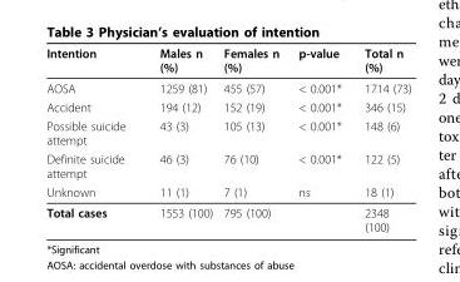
<table><thead><tr><td>Intention</td><td>Males n (%)</td><td>Females n (%)</td><td>p-value</td><td>Total n (%)</td></tr></thead><tbody><tr><td>AOSA</td><td>1259 (81)</td><td>455 (57)</td><td>&lt; 0.001*</td><td>1714 (73)</td></tr><tr><td>Accident</td><td>194 (12)</td><td>152 (19)</td><td>&lt; 0.001*</td><td>346 (15)</td></tr><tr><td>Possible suicide attempt</td><td>43 (3)</td><td>105 (13)</td><td>&lt; 0.001*</td><td>148 (6)</td></tr><tr><td>Definite suicide attempt</td><td>46 (3)</td><td>76 (10)</td><td>&lt; 0.001*</td><td>122 (5)</td></tr><tr><td>Unknown</td><td>11 (1)</td><td>7 (1)</td><td>ns</td><td>18 (1)</td></tr><tr><td>Total cases</td><td>1553 (100)</td><td>795 (100)</td><td></td><td>2348 (100)</td></tr></tbody></table>